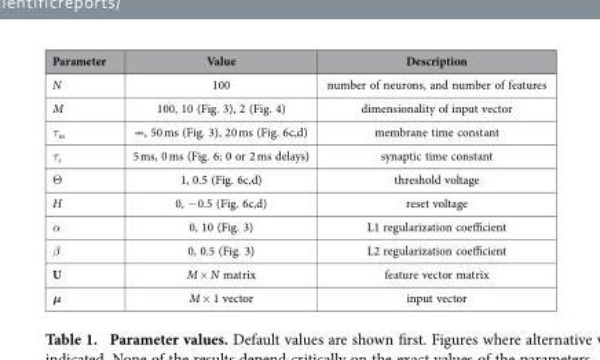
<table><thead><tr><td>Parameter</td><td>Value</td><td>Description</td></tr></thead><tbody><tr><td>N</td><td>100</td><td>number of neurons, and number of features</td></tr><tr><td>M</td><td>100, 10 (Fig. 3), 2 (Fig. 4)</td><td>dimensionality of input vector</td></tr><tr><td>τ<sub>m</sub></td><td>∞, 50 ms (Fig. 3), 20 ms (Fig. 6c,d)</td><td>membrane time constant</td></tr><tr><td>τ<sub>s</sub></td><td>5 ms, 0 ms (Fig. 6; 0 or 2 ms delays)</td><td>synaptic time constant</td></tr><tr><td>Θ</td><td>1, 0.5 (Fig. 6c,d)</td><td>threshold voltage</td></tr><tr><td>H</td><td>0, − 0.5 (Fig. 6c,d)</td><td>reset voltage</td></tr><tr><td>α</td><td>0, 10 (Fig. 3)</td><td>L1 regularization coefficient</td></tr><tr><td>β</td><td>0, 0.5 (Fig. 3)</td><td>L2 regularization coefficient</td></tr><tr><td>U</td><td>M × N matrix</td><td>feature vector matrix</td></tr><tr><td>μ</td><td>M × 1 vector</td><td>input vector</td></tr></tbody></table>